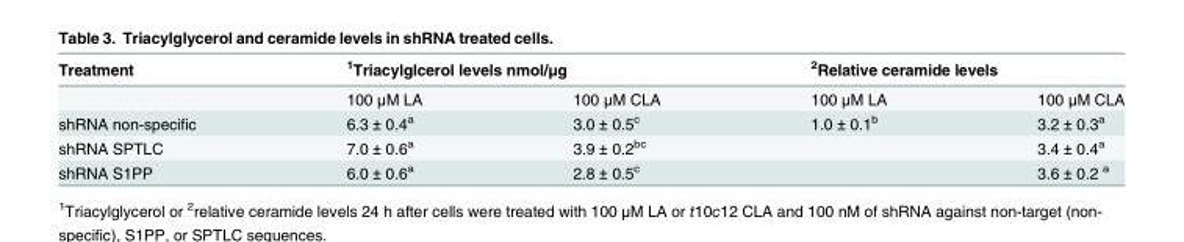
<table><thead><tr><td rowspan="2">Treatment</td><td colspan="2"><sup>1</sup>Triacylglcerol levels nmol/μg</td><td colspan="2"><sup>2</sup>Relative ceramide levels</td></tr><tr><td>100 μM LA</td><td>100 μM CLA</td><td>100 μM LA</td><td>100 μM CLA</td></tr></thead><tbody><tr><td>shRNA non-specific</td><td>6.3 ± 0.4<sup>a</sup></td><td>3.0 ± 0.5<sup>c</sup></td><td>1.0 ± 0.1<sup>b</sup></td><td>3.2 ± 0.3<sup>a</sup></td></tr><tr><td>shRNA SPTLC</td><td>7.0 ± 0.6<sup>a</sup></td><td>3.9 ± 0.2<sup>bc</sup></td><td></td><td>3.4 ± 0.4<sup>a</sup></td></tr><tr><td>shRNA S1PP</td><td>6.0 ± 0.6<sup>a</sup></td><td>2.8 ± 0.5<sup>c</sup></td><td></td><td>3.6 ± 0.2 <sup>a</sup></td></tr></tbody></table>